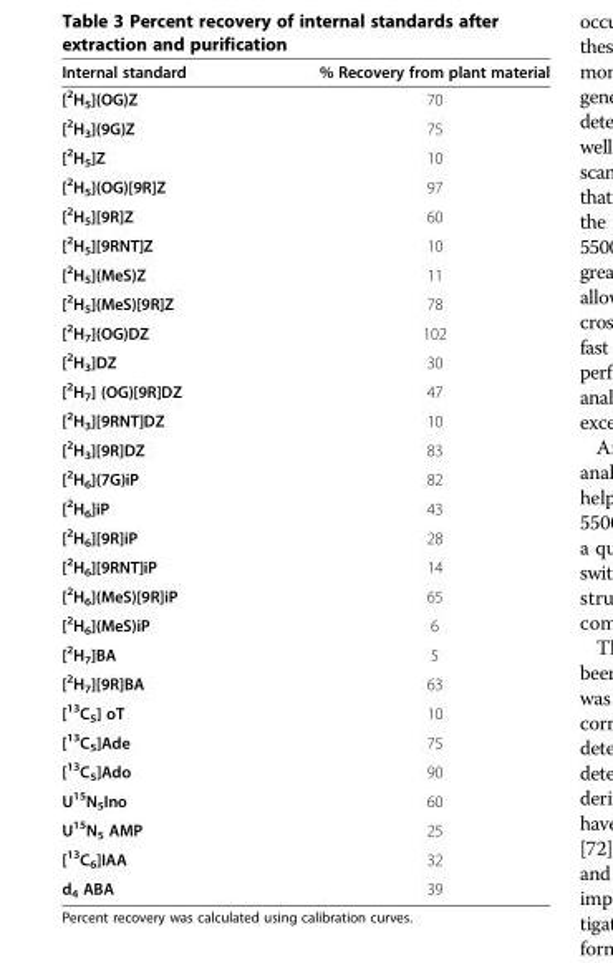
<table><thead><tr><td>Internal standard</td><td>% Recovery from plant material</td></tr></thead><tbody><tr><td>[<sup>2</sup>H<sub>5</sub>](OG)Z</td><td>70</td></tr><tr><td>[<sup>2</sup>H<sub>3</sub>](9G)Z</td><td>75</td></tr><tr><td>[<sup>2</sup>H<sub>5</sub>]Z</td><td>10</td></tr><tr><td>[<sup>2</sup>H<sub>5</sub>](OG)[9R]Z</td><td>97</td></tr><tr><td>[<sup>2</sup>H<sub>5</sub>][9R]Z</td><td>60</td></tr><tr><td>[<sup>2</sup>H<sub>5</sub>][9RNT]Z</td><td>10</td></tr><tr><td>[<sup>2</sup>H<sub>5</sub>](MeS)Z</td><td>11</td></tr><tr><td>[<sup>2</sup>H<sub>5</sub>](MeS)[9R]Z</td><td>78</td></tr><tr><td>[<sup>2</sup>H<sub>7</sub>](OG)DZ</td><td>102</td></tr><tr><td>[<sup>2</sup>H<sub>3</sub>]DZ</td><td>30</td></tr><tr><td>[<sup>2</sup>H<sub>7</sub>] (OG)[9R]DZ</td><td>47</td></tr><tr><td>[<sup>2</sup>H<sub>3</sub>][9RNT]DZ</td><td>10</td></tr><tr><td>[<sup>2</sup>H<sub>3</sub>][9R]DZ</td><td>83</td></tr><tr><td>[<sup>2</sup>H<sub>6</sub>](7G)iP</td><td>82</td></tr><tr><td>[<sup>2</sup>H<sub>6</sub>]iP</td><td>43</td></tr><tr><td>[<sup>2</sup>H<sub>6</sub>][9R]iP</td><td>28</td></tr><tr><td>[<sup>2</sup>H<sub>6</sub>][9RNT]iP</td><td>14</td></tr><tr><td>[<sup>2</sup>H<sub>6</sub>](MeS)[9R]iP</td><td>65</td></tr><tr><td>[<sup>2</sup>H<sub>6</sub>](MeS)iP</td><td>6</td></tr><tr><td>[<sup>2</sup>H<sub>7</sub>]BA</td><td>5</td></tr><tr><td>[<sup>2</sup>H<sub>7</sub>][9R]BA</td><td>63</td></tr><tr><td>[<sup>13</sup>C<sub>5</sub>] oT</td><td>10</td></tr><tr><td>[<sup>13</sup>C<sub>5</sub>]Ade</td><td>75</td></tr><tr><td>[<sup>13</sup>C<sub>5</sub>]Ado</td><td>90</td></tr><tr><td>U<sup>15</sup>N<sub>5</sub>Ino</td><td>60</td></tr><tr><td>U<sup>15</sup>N<sub>5</sub> AMP</td><td>25</td></tr><tr><td>[<sup>13</sup>C<sub>6</sub>]IAA</td><td>32</td></tr><tr><td>d<sub>4</sub> ABA</td><td>39</td></tr></tbody></table>